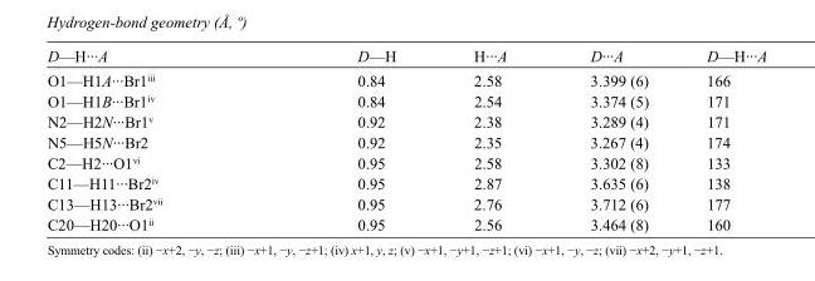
<table><tbody><tr><td>D—H···A</td><td>D—H</td><td>H···A</td><td>D···A</td><td>D—H···A</td></tr><tr><td>O1—H1A···Br1<sup>iii</sup></td><td>0.84</td><td>2.58</td><td>3.399 (6)</td><td>166</td></tr><tr><td>O1—H1B···Br1<sup>iv</sup></td><td>0.84</td><td>2.54</td><td>3.374 (5)</td><td>171</td></tr><tr><td>N2—H2N···Br1<sup>v</sup></td><td>0.92</td><td>2.38</td><td>3.289 (4)</td><td>171</td></tr><tr><td>N5—H5N···Br2</td><td>0.92</td><td>2.35</td><td>3.267 (4)</td><td>174</td></tr><tr><td>C2—H2···O1<sup>vi</sup></td><td>0.95</td><td>2.58</td><td>3.302 (8)</td><td>133</td></tr><tr><td>C11—H11···Br2<sup>iv</sup></td><td>0.95</td><td>2.87</td><td>3.635 (6)</td><td>138</td></tr><tr><td>C13—H13···Br2<sup>vii</sup></td><td>0.95</td><td>2.76</td><td>3.712 (6)</td><td>177</td></tr><tr><td>C20—H20···O1<sup>ii</sup></td><td>0.95</td><td>2.56</td><td>3.464 (8)</td><td>160</td></tr></tbody></table>